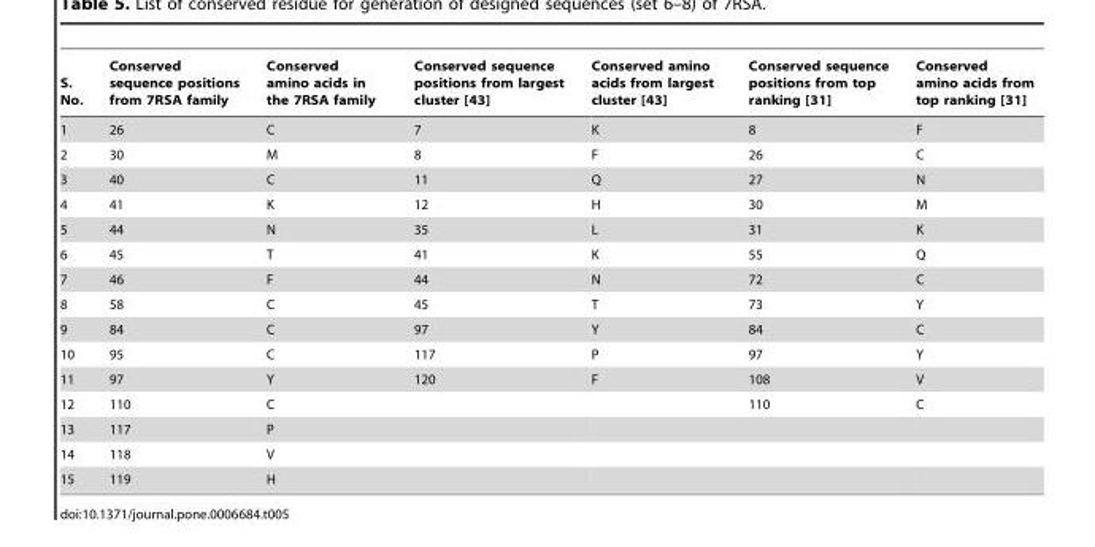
<table><thead><tr><td>S. No.</td><td>Conserved sequence positions from 7RSA family</td><td>Conserved amino acids in the 7RSA family</td><td>Conserved sequence positions from largest cluster [43]</td><td>Conserved amino acids from largest cluster [43]</td><td>Conserved sequence positions from top ranking [31]</td><td>Conserved amino acids from top ranking [31]</td></tr></thead><tbody><tr><td>1</td><td>26</td><td>C</td><td>7</td><td>K</td><td>8</td><td>F</td></tr><tr><td>2</td><td>30</td><td>M</td><td>8</td><td>F</td><td>26</td><td>C</td></tr><tr><td>3</td><td>40</td><td>C</td><td>11</td><td>Q</td><td>27</td><td>N</td></tr><tr><td>4</td><td>41</td><td>K</td><td>12</td><td>H</td><td>30</td><td>M</td></tr><tr><td>5</td><td>44</td><td>N</td><td>35</td><td>L</td><td>31</td><td>K</td></tr><tr><td>6</td><td>45</td><td>T</td><td>41</td><td>K</td><td>55</td><td>Q</td></tr><tr><td>7</td><td>46</td><td>F</td><td>44</td><td>N</td><td>72</td><td>C</td></tr><tr><td>8</td><td>58</td><td>C</td><td>45</td><td>T</td><td>73</td><td>Y</td></tr><tr><td>9</td><td>84</td><td>C</td><td>97</td><td>Y</td><td>84</td><td>C</td></tr><tr><td>10</td><td>95</td><td>C</td><td>117</td><td>P</td><td>97</td><td>Y</td></tr><tr><td>11</td><td>97</td><td>Y</td><td>120</td><td>F</td><td>108</td><td>V</td></tr><tr><td>12</td><td>110</td><td>C</td><td></td><td></td><td>110</td><td>C</td></tr><tr><td>13</td><td>117</td><td>P</td><td></td><td></td><td></td><td></td></tr><tr><td>14</td><td>118</td><td>V</td><td></td><td></td><td></td><td></td></tr><tr><td>15</td><td>119</td><td>H</td><td></td><td></td><td></td><td></td></tr></tbody></table>